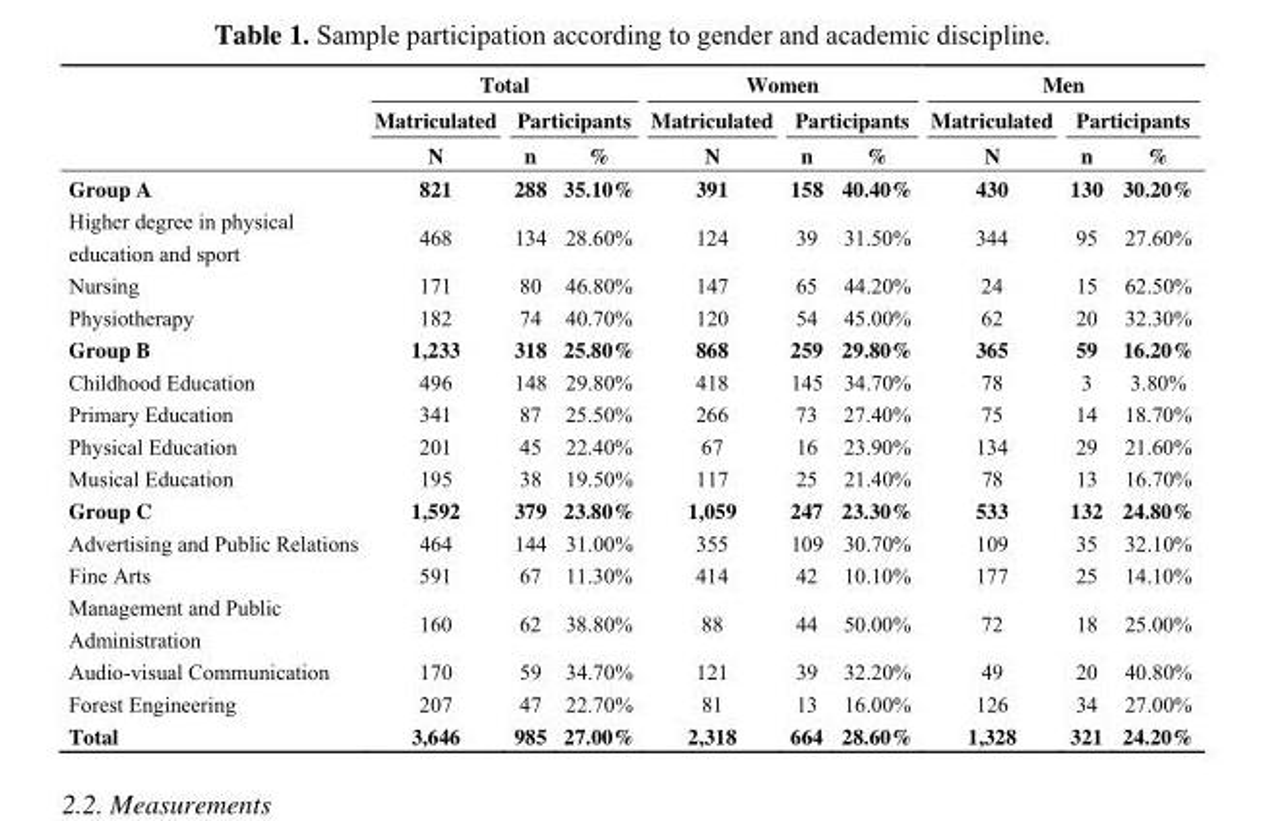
<table><thead><tr><td rowspan="3"></td><td colspan="3">Total</td><td colspan="3">Women</td><td colspan="3">Men</td></tr><tr><td rowspan="2">Matriculated N</td><td colspan="2">Participants</td><td rowspan="2">Matriculated N</td><td colspan="2">Participants</td><td rowspan="2">Matriculated N</td><td colspan="2">Participants</td></tr><tr><td>n</td><td>%</td><td>n</td><td>%</td><td>n</td><td>%</td></tr></thead><tbody><tr><td>Group A</td><td>821</td><td>288</td><td>35.10%</td><td>391</td><td>158</td><td>40.40%</td><td>430</td><td>130</td><td>30.20%</td></tr><tr><td>Higher degree in physical education and sport</td><td>468</td><td>134</td><td>28.60%</td><td>124</td><td>39</td><td>31.50%</td><td>344</td><td>95</td><td>27.60%</td></tr><tr><td>Nursing</td><td>171</td><td>80</td><td>46.80%</td><td>147</td><td>65</td><td>44.20%</td><td>24</td><td>15</td><td>62.50%</td></tr><tr><td>Physiotherapy</td><td>182</td><td>74</td><td>40.70%</td><td>120</td><td>54</td><td>45.00%</td><td>62</td><td>20</td><td>32.30%</td></tr><tr><td>Group B</td><td>1,233</td><td>318</td><td>25.80%</td><td>868</td><td>259</td><td>29.80%</td><td>365</td><td>59</td><td>16.20%</td></tr><tr><td>Childhood Education</td><td>496</td><td>148</td><td>29.80%</td><td>418</td><td>145</td><td>34.70%</td><td>78</td><td>3</td><td>3.80%</td></tr><tr><td>Primary Education</td><td>341</td><td>87</td><td>25.50%</td><td>266</td><td>73</td><td>27.40%</td><td>75</td><td>14</td><td>18.70%</td></tr><tr><td>Physical Education</td><td>201</td><td>45</td><td>22.40%</td><td>67</td><td>16</td><td>23.90%</td><td>134</td><td>29</td><td>21.60%</td></tr><tr><td>Musical Education</td><td>195</td><td>38</td><td>19.50%</td><td>117</td><td>25</td><td>21.40%</td><td>78</td><td>13</td><td>16.70%</td></tr><tr><td>Group C</td><td>1,592</td><td>379</td><td>23.80%</td><td>1,059</td><td>247</td><td>23.30%</td><td>533</td><td>132</td><td>24.80%</td></tr><tr><td>Advertising and Public Relations</td><td>464</td><td>144</td><td>31.00%</td><td>355</td><td>109</td><td>30.70%</td><td>109</td><td>35</td><td>32.10%</td></tr><tr><td>Fine Arts</td><td>591</td><td>67</td><td>11.30%</td><td>414</td><td>42</td><td>10.10%</td><td>177</td><td>25</td><td>14.10%</td></tr><tr><td>Management and Public Administration</td><td>160</td><td>62</td><td>38.80%</td><td>88</td><td>44</td><td>50.00%</td><td>72</td><td>18</td><td>25.00%</td></tr><tr><td>Audio-visual Communication</td><td>170</td><td>59</td><td>34.70%</td><td>121</td><td>39</td><td>32.20%</td><td>49</td><td>20</td><td>40.80%</td></tr><tr><td>Forest Engineering</td><td>207</td><td>47</td><td>22.70%</td><td>81</td><td>13</td><td>16.00%</td><td>126</td><td>34</td><td>27.00%</td></tr><tr><td>Total</td><td>3,646</td><td>985</td><td>27.00%</td><td>2,318</td><td>664</td><td>28.60%</td><td>1,328</td><td>321</td><td>24.20%</td></tr></tbody></table>